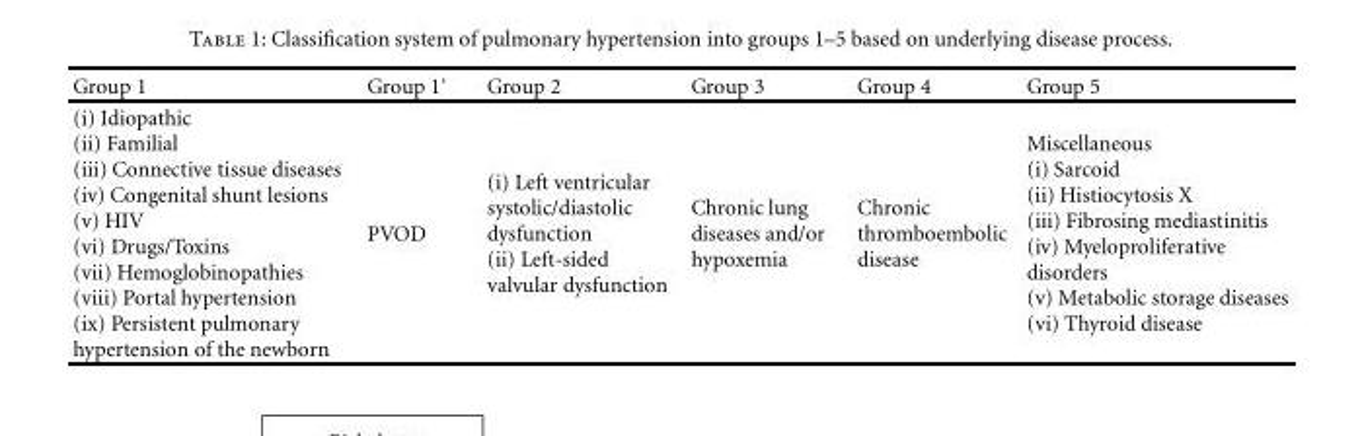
<table><thead><tr><td>Group 1</td><td>Group 1′</td><td>Group 2</td><td>Group 3</td><td>Group 4</td><td>Group 5</td></tr></thead><tbody><tr><td>(i) Idiopathic (ii) Familial (iii) Connective tissue diseases (iv) Congenital shunt lesions (v) HIV (vi) Drugs/Toxins (vii) Hemoglobinopathies (viii) Portal hypertension (ix) Persistent pulmonary hypertension of the newborn</td><td>PVOD</td><td>(i) Left ventricular systolic/diastolic dysfunction (ii) Left-sided valvular dysfunction</td><td>Chronic lung diseases and/or hypoxemia</td><td>Chronic thromboembolic disease</td><td>Miscellaneous (i) Sarcoid (ii) Histiocytosis X (iii) Fibrosing mediastinitis (iv) Myeloproliferative disorders (v) Metabolic storage diseases (vi) Thyroid disease</td></tr></tbody></table>